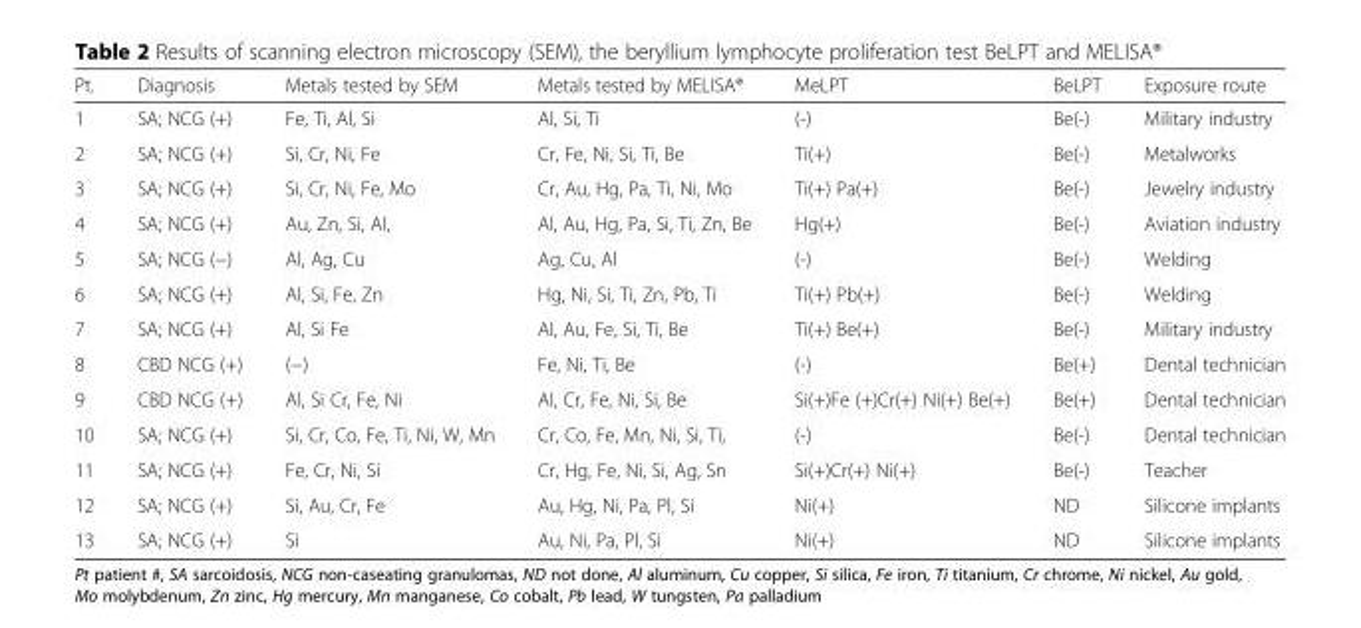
<table><thead><tr><td>Pt.</td><td>Diagnosis</td><td>Metals tested by SEM</td><td>Metals tested by MELISA®</td><td>MeLPT</td><td>BeLPT</td><td>Exposure route</td></tr></thead><tbody><tr><td>1</td><td>SA; NCG (+)</td><td>Fe, Ti, Al, Si</td><td>Al, Si, Ti</td><td>(-)</td><td>Be(-)</td><td>Military industry</td></tr><tr><td>2</td><td>SA; NCG (+)</td><td>Si, Cr, Ni, Fe</td><td>Cr, Fe, Ni, Si, Ti, Be</td><td>Ti(+)</td><td>Be(-)</td><td>Metalworks</td></tr><tr><td>3</td><td>SA; NCG (+)</td><td>Si, Cr, Ni, Fe, Mo</td><td>Cr, Au, Hg, Pa, Ti, Ni, Mo</td><td>Ti(+) Pa(+)</td><td>Be(-)</td><td>Jewelry industry</td></tr><tr><td>4</td><td>SA; NCG (+)</td><td>Au, Zn, Si, Al,</td><td>Al, Au, Hg, Pa, Si, Ti, Zn, Be</td><td>Hg(+)</td><td>Be(-)</td><td>Aviation industry</td></tr><tr><td>5</td><td>SA; NCG (−)</td><td>Al, Ag, Cu</td><td>Ag, Cu, Al</td><td>(-)</td><td>Be(-)</td><td>Welding</td></tr><tr><td>6</td><td>SA; NCG (+)</td><td>Al, Si, Fe, Zn</td><td>Hg, Ni, Si, Ti, Zn, Pb, Ti</td><td>Ti(+) Pb(+)</td><td>Be(-)</td><td>Welding</td></tr><tr><td>7</td><td>SA; NCG (+)</td><td>Al, Si Fe</td><td>Al, Au, Fe, Si, Ti, Be</td><td>Ti(+) Be(+)</td><td>Be(-)</td><td>Military industry</td></tr><tr><td>8</td><td>CBD NCG (+)</td><td>(−)</td><td>Fe, Ni, Ti, Be</td><td>(-)</td><td>Be(+)</td><td>Dental technician</td></tr><tr><td>9</td><td>CBD NCG (+)</td><td>Al, Si Cr, Fe, Ni</td><td>Al, Cr, Fe, Ni, Si, Be</td><td>Si(+)Fe (+)Cr(+) Ni(+) Be(+)</td><td>Be(+)</td><td>Dental technician</td></tr><tr><td>10</td><td>SA; NCG (+)</td><td>Si, Cr, Co, Fe, Ti, Ni, W, Mn</td><td>Cr, Co, Fe, Mn, Ni, Si, Ti,</td><td>(-)</td><td>Be(-)</td><td>Dental technician</td></tr><tr><td>11</td><td>SA; NCG (+)</td><td>Fe, Cr, Ni, Si</td><td>Cr, Hg, Fe, Ni, Si, Ag, Sn</td><td>Si(+)Cr(+) Ni(+)</td><td>Be(-)</td><td>Teacher</td></tr><tr><td>12</td><td>SA; NCG (+)</td><td>Si, Au, Cr, Fe</td><td>Au, Hg, Ni, Pa, Pl, Si</td><td>Ni(+)</td><td>ND</td><td>Silicone implants</td></tr><tr><td>13</td><td>SA; NCG (+)</td><td>Si</td><td>Au, Ni, Pa, Pl, Si</td><td>Ni(+)</td><td>ND</td><td>Silicone implants</td></tr></tbody></table>